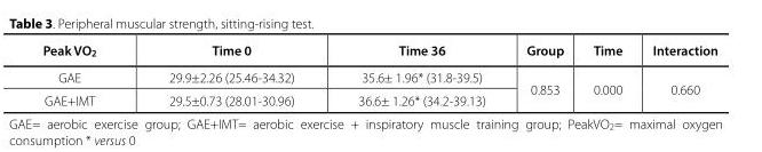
<table><thead><tr><td>Peak VO<sub>2</sub></td><td>Time 0</td><td>Time 36</td><td>Group</td><td>Time</td><td>Interaction</td></tr></thead><tbody><tr><td>GAE</td><td>29.9±2.26 (25.46-34.32)</td><td>35.6± 1.96* (31.8-39.5)</td><td rowspan="2">0.853</td><td rowspan="2">0.000</td><td rowspan="2">0.660</td></tr><tr><td>GAE+IMT</td><td>29.5±0.73 (28.01-30.96)</td><td>36.6± 1.26* (34.2-39.13)</td></tr></tbody></table>